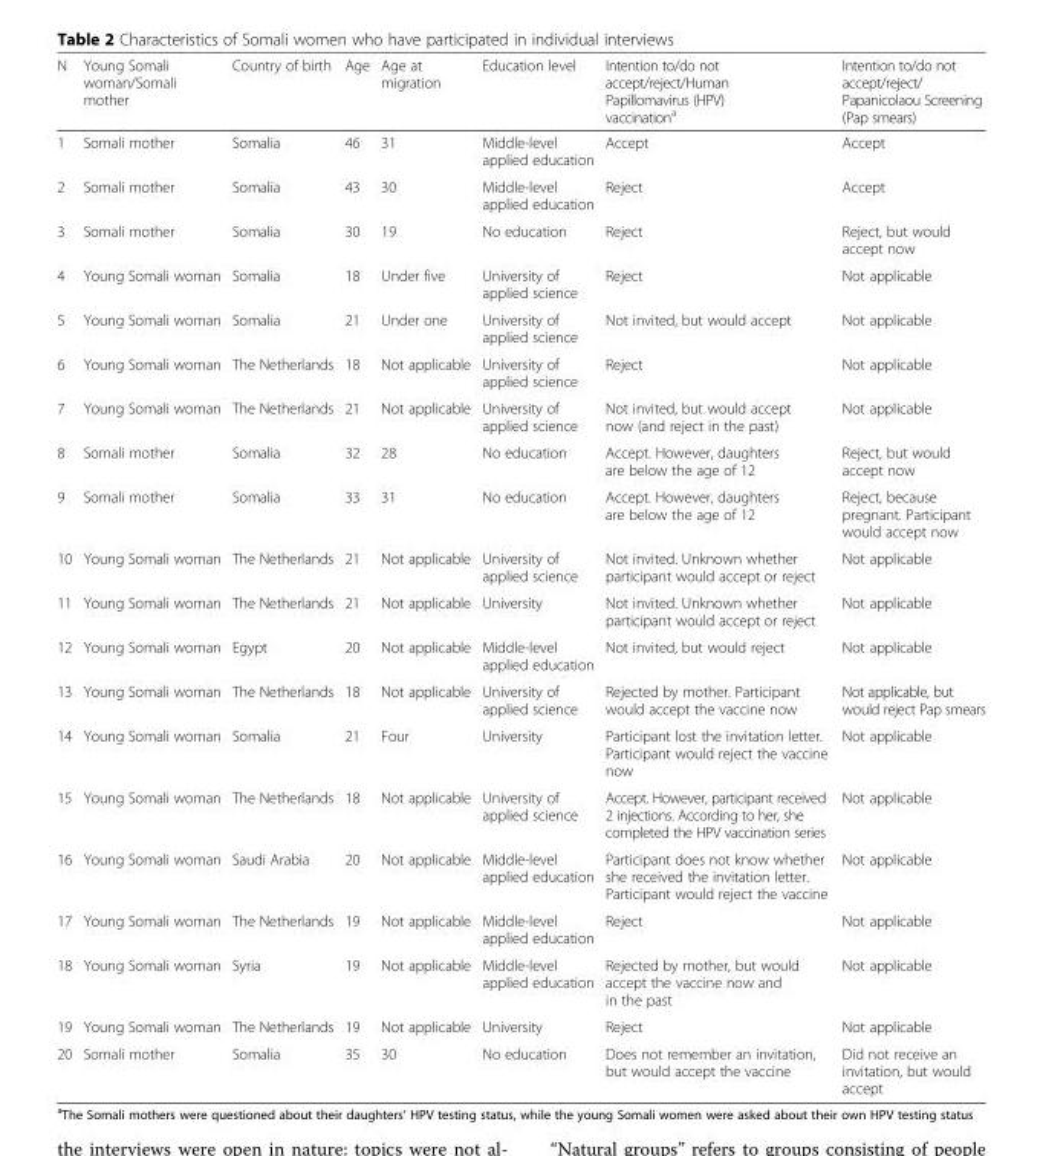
<table><thead><tr><td>N</td><td>Young Somali woman/Somali mother</td><td>Country of birth</td><td>Age</td><td>Age at migration</td><td>Education level</td><td>Intention to/do not accept/reject/Human Papillomavirus (HPV) vaccination<sup>a</sup></td><td>Intention to/do not accept/reject/ Papanicolaou Screening (Pap smears)</td></tr></thead><tbody><tr><td>1</td><td>Somali mother</td><td>Somalia</td><td>46</td><td>31</td><td>Middle-level applied education</td><td>Accept</td><td>Accept</td></tr><tr><td>2</td><td>Somali mother</td><td>Somalia</td><td>43</td><td>30</td><td>Middle-level applied education</td><td>Reject</td><td>Accept</td></tr><tr><td>3</td><td>Somali mother</td><td>Somalia</td><td>30</td><td>19</td><td>No education</td><td>Reject</td><td>Reject, but would accept now</td></tr><tr><td>4</td><td>Young Somali woman</td><td>Somalia</td><td>18</td><td>Under five</td><td>University of applied science</td><td>Reject</td><td>Not applicable</td></tr><tr><td>5</td><td>Young Somali woman</td><td>Somalia</td><td>21</td><td>Under one</td><td>University of applied science</td><td>Not invited, but would accept</td><td>Not applicable</td></tr><tr><td>6</td><td>Young Somali woman</td><td>The Netherlands</td><td>18</td><td>Not applicable</td><td>University of applied science</td><td>Reject</td><td>Not applicable</td></tr><tr><td>7</td><td>Young Somali woman</td><td>The Netherlands</td><td>21</td><td>Not applicable</td><td>University of applied science</td><td>Not invited, but would accept now (and reject in the past)</td><td>Not applicable</td></tr><tr><td>8</td><td>Somali mother</td><td>Somalia</td><td>32</td><td>28</td><td>No education</td><td>Accept. However, daughters are below the age of 12</td><td>Reject, but would accept now</td></tr><tr><td>9</td><td>Somali mother</td><td>Somalia</td><td>33</td><td>31</td><td>No education</td><td>Accept. However, daughters are below the age of 12</td><td>Reject, because pregnant. Participant would accept now</td></tr><tr><td>10</td><td>Young Somali woman</td><td>The Netherlands</td><td>21</td><td>Not applicable</td><td>University of applied science</td><td>Not invited. Unknown whether participant would accept or reject</td><td>Not applicable</td></tr><tr><td>11</td><td>Young Somali woman</td><td>The Netherlands</td><td>21</td><td>Not applicable</td><td>University</td><td>Not invited. Unknown whether participant would accept or reject</td><td>Not applicable</td></tr><tr><td>12</td><td>Young Somali woman</td><td>Egypt</td><td>20</td><td>Not applicable</td><td>Middle-level applied education</td><td>Not invited, but would reject</td><td>Not applicable</td></tr><tr><td>13</td><td>Young Somali woman</td><td>The Netherlands</td><td>18</td><td>Not applicable</td><td>University of applied science</td><td>Rejected by mother. Participant would accept the vaccine now</td><td>Not applicable, but would reject Pap smears</td></tr><tr><td>14</td><td>Young Somali woman</td><td>Somalia</td><td>21</td><td>Four</td><td>University</td><td>Participant lost the invitation letter. Participant would reject the vaccine now</td><td>Not applicable</td></tr><tr><td>15</td><td>Young Somali woman</td><td>The Netherlands</td><td>18</td><td>Not applicable</td><td>University of applied science</td><td>Accept. However, participant received 2 injections. According to her, she completed the HPV vaccination series</td><td>Not applicable</td></tr><tr><td>16</td><td>Young Somali woman</td><td>Saudi Arabia</td><td>20</td><td>Not applicable</td><td>Middle-level applied education</td><td>Participant does not know whether she received the invitation letter. Participant would reject the vaccine</td><td>Not applicable</td></tr><tr><td>17</td><td>Young Somali woman</td><td>The Netherlands</td><td>19</td><td>Not applicable</td><td>Middle-level applied education</td><td>Reject</td><td>Not applicable</td></tr><tr><td>18</td><td>Young Somali woman</td><td>Syria</td><td>19</td><td>Not applicable</td><td>Middle-level applied education</td><td>Rejected by mother, but would accept the vaccine now and in the past</td><td>Not applicable</td></tr><tr><td>19</td><td>Young Somali woman</td><td>The Netherlands</td><td>19</td><td>Not applicable</td><td>University</td><td>Reject</td><td>Not applicable</td></tr><tr><td>20</td><td>Somali mother</td><td>Somalia</td><td>35</td><td>30</td><td>No education</td><td>Does not remember an invitation, but would accept the vaccine</td><td>Did not receive an invitation, but would accept</td></tr></tbody></table>